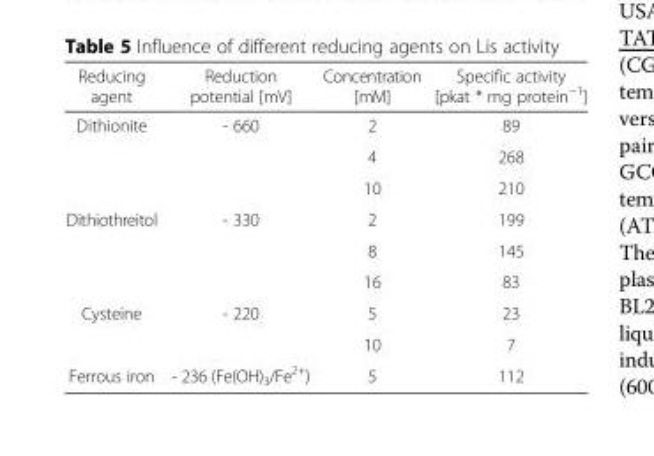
<table><thead><tr><td>Reducing agent</td><td>Reduction potential [mV]</td><td>Concentration [mM]</td><td>Specific activity [pkat * mg protein<sup>−1</sup>]</td></tr></thead><tbody><tr><td rowspan="3">Dithionite</td><td>- 660</td><td>2</td><td>89</td></tr><tr><td></td><td>4</td><td>268</td></tr><tr><td></td><td>10</td><td>210</td></tr><tr><td rowspan="3">Dithiothreitol</td><td>- 330</td><td>2</td><td>199</td></tr><tr><td></td><td>8</td><td>145</td></tr><tr><td></td><td>16</td><td>83</td></tr><tr><td rowspan="2">Cysteine</td><td>- 220</td><td>5</td><td>23</td></tr><tr><td></td><td>10</td><td>7</td></tr><tr><td>Ferrous iron</td><td>- 236 (Fe(OH)<sub>3</sub>/Fe<sup>2+</sup>)</td><td>5</td><td>112</td></tr></tbody></table>